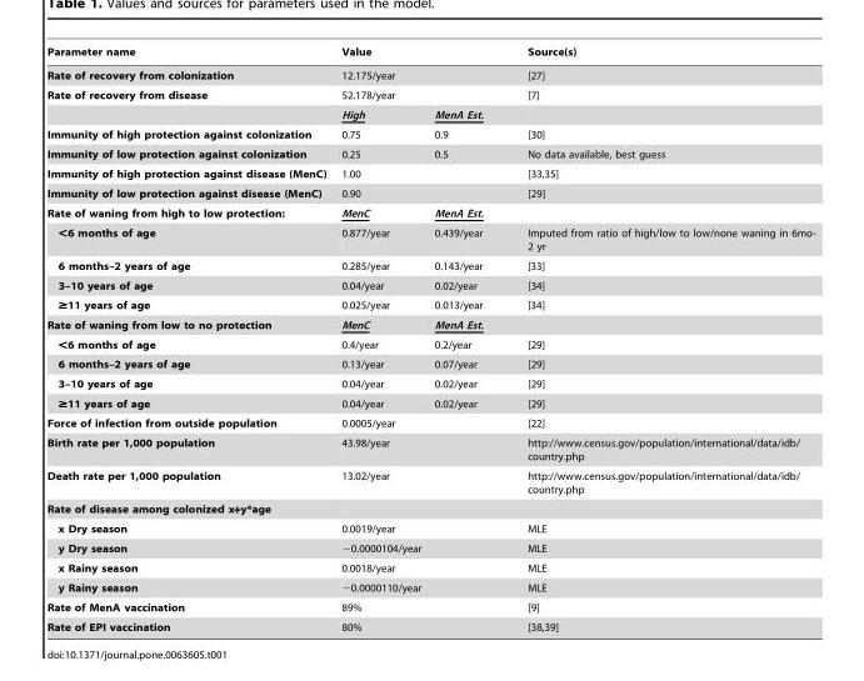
<table><thead><tr><td rowspan="4">Parameter name Rate of recovery from colonization Rate of recovery from disease</td><td rowspan="3" colspan="2">Value 12.175/year 52.178/year</td><td rowspan="4">Source(s) [27] [7]</td></tr><tr></tr><tr></tr><tr><td>High</td><td>MenA Est.</td></tr></thead><tbody><tr><td>Immunity of high protection against colonization</td><td>0.75</td><td>0.9</td><td>[30]</td></tr><tr><td>Immunity of low protection against colonization</td><td>0.25</td><td>0.5</td><td>No data available, best guess</td></tr><tr><td>Immunity of high protection against disease (MenC)</td><td colspan="2">1.00</td><td>[33,35]</td></tr><tr><td>Immunity of low protection against disease (MenC)</td><td colspan="2">0.90</td><td>[29]</td></tr><tr><td>Rate of waning from high to low protection:</td><td>MenC</td><td>MenA Est.</td><td></td></tr><tr><td>&lt;6 months of age</td><td>0.877/year</td><td>0.439/year</td><td>Imputed from ratio of high/low to low/none waning in 6mo- 2 yr</td></tr><tr><td>6 months–2 years of age</td><td>0.285/year</td><td>0.143/year</td><td>[33]</td></tr><tr><td>3–10 years of age</td><td>0.04/year</td><td>0.02/year</td><td>[34]</td></tr><tr><td>≥11 years of age</td><td>0.025/year</td><td>0.013/year</td><td>[34]</td></tr><tr><td>Rate of waning from low to no protection</td><td>MenC</td><td>MenA Est.</td><td></td></tr><tr><td>&lt;6 months of age</td><td>0.4/year</td><td>0.2/year</td><td>[29]</td></tr><tr><td>6 months–2 years of age</td><td>0.13/year</td><td>0.07/year</td><td>[29]</td></tr><tr><td>3–10 years of age</td><td>0.04/year</td><td>0.02/year</td><td>[29]</td></tr><tr><td>≥11 years of age</td><td>0.04/year</td><td>0.02/year</td><td>[29]</td></tr><tr><td>Force of infection from outside population</td><td colspan="2">0.0005/year</td><td>[22]</td></tr><tr><td>Birth rate per 1,000 population</td><td colspan="2">43.98/year</td><td>http://www.census.gov/population/international/data/idb/ country.php</td></tr><tr><td>Death rate per 1,000 population</td><td colspan="2">13.02/year</td><td>http://www.census.gov/population/international/data/idb/ country.php</td></tr><tr><td colspan="4">Rate of disease among colonized x+y*age</td></tr><tr><td>x Dry season</td><td colspan="2">0.0019/year</td><td>MLE</td></tr><tr><td>y Dry season</td><td colspan="2">−0.0000104/year</td><td>MLE</td></tr><tr><td>x Rainy season</td><td colspan="2">0.0018/year</td><td>MLE</td></tr><tr><td>y Rainy season</td><td colspan="2">−0.0000110/year</td><td>MLE</td></tr><tr><td>Rate of MenA vaccination</td><td colspan="2">89%</td><td>[9]</td></tr><tr><td>Rate of EPI vaccination</td><td colspan="2">80%</td><td>[38,39]</td></tr></tbody></table>